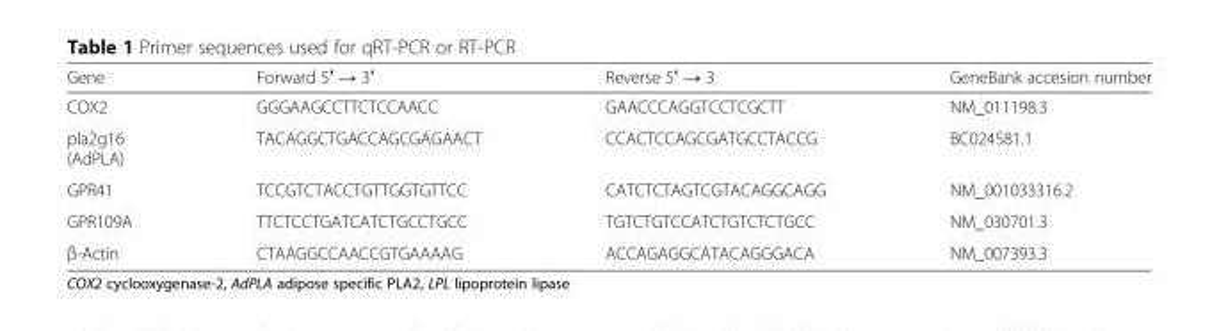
<table><thead><tr><td>Gene</td><td>Forward 5′ → 3′</td><td>Reverse 5′ → 3</td><td>GeneBank accesion number</td></tr></thead><tbody><tr><td>COX2</td><td>GGGAAGCCTTCTCCAACC</td><td>GAACCCAGGTCCTCGCTT</td><td>NM_011198.3</td></tr><tr><td>pla2g16 (AdPLA)</td><td>TACAGGCTGACCAGCGAGAACT</td><td>CCACTCCAGCGATGCCTACCG</td><td>BC024581.1</td></tr><tr><td>GPR41</td><td>TCCGTCTACCTGTTGGTGTTCC</td><td>CATCTCTAGTCGTACAGGCAGG</td><td>NM_001033316.2</td></tr><tr><td>GPR109A</td><td>TTCTCCTGATCATCTGCCTGCC</td><td>TGTCTGTCCATCTGTCTCTGCC</td><td>NM_030701.3</td></tr><tr><td>β-Actin</td><td>CTAAGGCCAACCGTGAAAAG</td><td>ACCAGAGGCATACAGGGACA</td><td>NM_007393.3</td></tr></tbody></table>